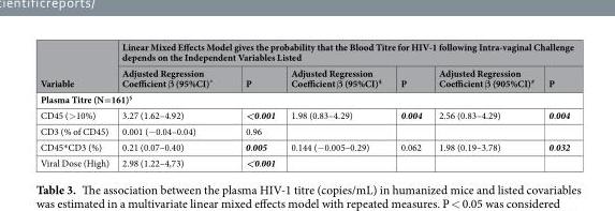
<table><thead><tr><td rowspan="2">Variable</td><td colspan="6">Linear Mixed Effects Model gives the probability that the Blood Titre for HIV-1 following Intra-vaginal Challenge depends on the Independent Variables Listed</td></tr><tr><td>Adjusted Regression Coefficient β (95%CI)<sup>^</sup></td><td>P</td><td>Adjusted Regression Coefficient β (95%CI)<sup>$</sup></td><td>P</td><td>Adjusted Regression Coefficient β (905%CI)<sup>#</sup></td><td>P</td></tr></thead><tbody><tr><td colspan="7">Plasma Titre (N=161)<sup>§</sup></td></tr><tr><td>CD45 (&gt;10%)</td><td>3.27 (1.62–4.92)</td><td>&lt;0.001</td><td>1.98 (0.83–4.29)</td><td>0.004</td><td>2.56 (0.83–4.29)</td><td>0.004</td></tr><tr><td>CD3 (% of CD45)</td><td>0.001 (−0.04–0.04)</td><td>0.96</td><td></td><td></td><td></td><td></td></tr><tr><td>CD45*CD3 (%)</td><td>0.21 (0.07–0.40)</td><td>0.005</td><td>0.144 (−0.005–0.29)</td><td>0.062</td><td>1.98 (0.19–3.78)</td><td>0.032</td></tr><tr><td>Viral Dose (High)</td><td>2.98 (1.22–4,73)</td><td>&lt;0.001</td><td></td><td></td><td></td><td></td></tr></tbody></table>